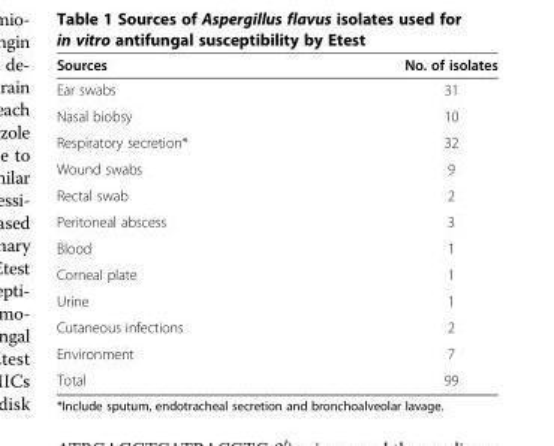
<table><thead><tr><td>Sources</td><td>No. of isolates</td></tr></thead><tbody><tr><td>Ear swabs</td><td>31</td></tr><tr><td>Nasal biobsy</td><td>10</td></tr><tr><td>Respiratory secretion*</td><td>32</td></tr><tr><td>Wound swabs</td><td>9</td></tr><tr><td>Rectal swab</td><td>2</td></tr><tr><td>Peritoneal abscess</td><td>3</td></tr><tr><td>Blood</td><td>1</td></tr><tr><td>Corneal plate</td><td>1</td></tr><tr><td>Urine</td><td>1</td></tr><tr><td>Cutaneous infections</td><td>2</td></tr><tr><td>Environment</td><td>7</td></tr><tr><td>Total</td><td>99</td></tr></tbody></table>